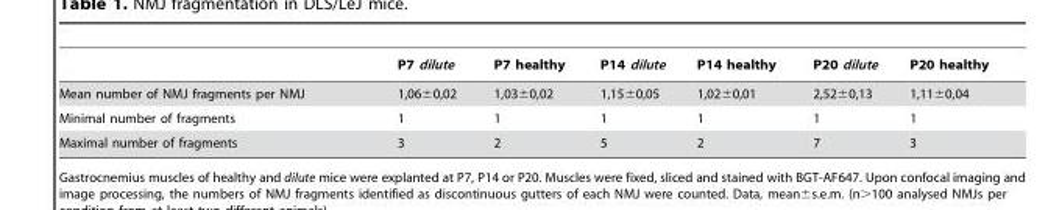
<table><thead><tr><td></td><td>P7 dilute</td><td>P7 healthy</td><td>P14 dilute</td><td>P14 healthy</td><td>P20 dilute</td><td>P20 healthy</td></tr></thead><tbody><tr><td>Mean number of NMJ fragments per NMJ</td><td>1,06±0,02</td><td>1,03±0,02</td><td>1,15±0,05</td><td>1,02±0,01</td><td>2,52±0,13</td><td>1,11±0,04</td></tr><tr><td>Minimal number of fragments</td><td>1</td><td>1</td><td>1</td><td>1</td><td>1</td><td>1</td></tr><tr><td>Maximal number of fragments</td><td>3</td><td>2</td><td>5</td><td>2</td><td>7</td><td>3</td></tr></tbody></table>